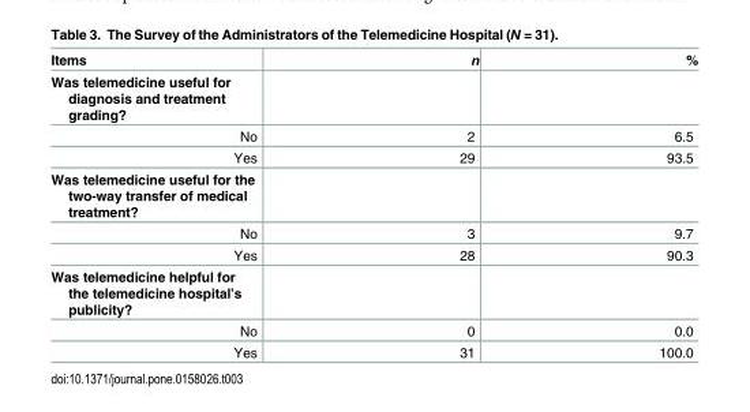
<table><thead><tr><td>Items</td><td>n</td><td>%</td></tr></thead><tbody><tr><td colspan="3">Was telemedicine useful for diagnosis and treatment grading?</td></tr><tr><td>No</td><td>2</td><td>6.5</td></tr><tr><td>Yes</td><td>29</td><td>93.5</td></tr><tr><td colspan="3">Was telemedicine useful for the two-way transfer of medical treatment?</td></tr><tr><td>No</td><td>3</td><td>9.7</td></tr><tr><td>Yes</td><td>28</td><td>90.3</td></tr><tr><td colspan="3">Was telemedicine helpful for the telemedicine hospital’s publicity?</td></tr><tr><td>No</td><td>0</td><td>0.0</td></tr><tr><td>Yes</td><td>31</td><td>100.0</td></tr></tbody></table>